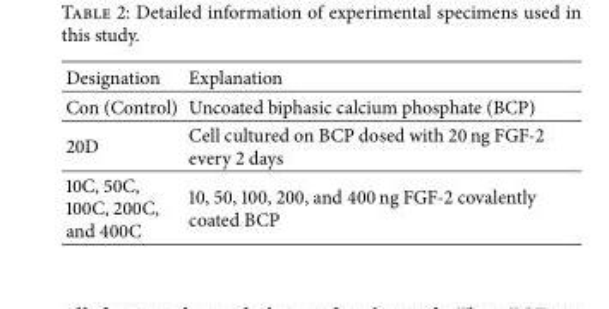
<table><thead><tr><td>Designation</td><td>Explanation</td></tr></thead><tbody><tr><td>Con (Control)</td><td>Uncoated biphasic calcium phosphate (BCP)</td></tr><tr><td>20D</td><td>Cell cultured on BCP dosed with 20 ng FGF-2 every 2 days</td></tr><tr><td>10C, 50C, 100C, 200C, and 400C</td><td>10, 50, 100, 200, and 400 ng FGF-2 covalently coated BCP</td></tr></tbody></table>